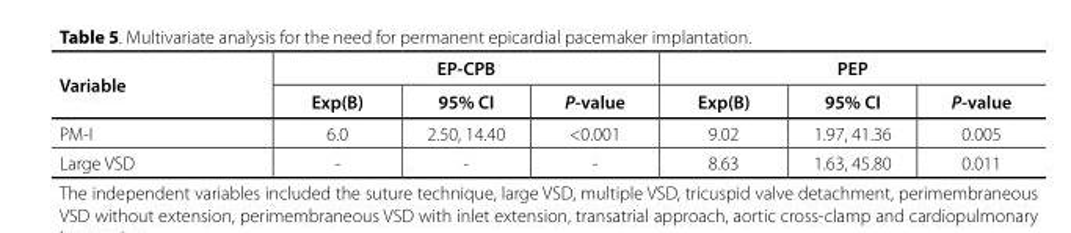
<table><thead><tr><td rowspan="2">Variable</td><td colspan="3">EP-CPB</td><td colspan="3">PEP</td></tr><tr><td>Exp(B)</td><td>95% CI</td><td>P-value</td><td>Exp(B)</td><td>95% CI</td><td>P-value</td></tr></thead><tbody><tr><td>PM-I</td><td>6.0</td><td>2.50, 14.40</td><td>&lt;0.001</td><td>9.02</td><td>1.97, 41.36</td><td>0.005</td></tr><tr><td>Large VSD</td><td>-</td><td>-</td><td>-</td><td>8.63</td><td>1.63, 45.80</td><td>0.011</td></tr></tbody></table>